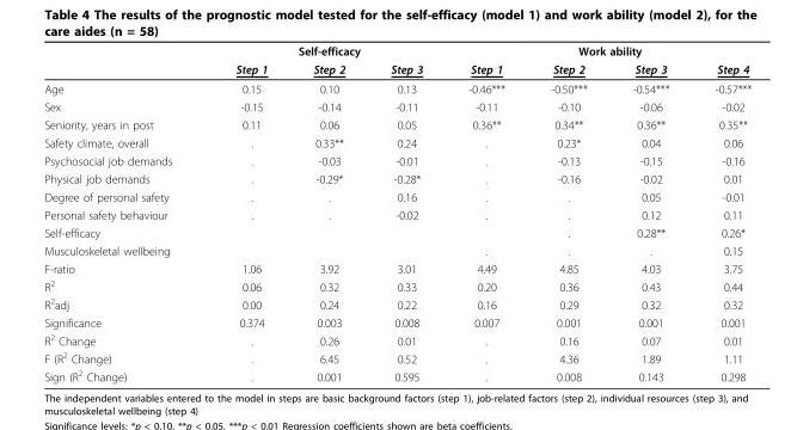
<table><thead><tr><td rowspan="2"></td><td colspan="3">Self-efficacy</td><td colspan="4">Work ability</td></tr><tr><td>Step 1</td><td>Step 2</td><td>Step 3</td><td>Step 1</td><td>Step 2</td><td>Step 3</td><td>Step 4</td></tr></thead><tbody><tr><td>Age</td><td>0.15</td><td>0.10</td><td>0.13</td><td>-0.46***</td><td>-0.50***</td><td>-0.54***</td><td>-0.57***</td></tr><tr><td>Sex</td><td>-0.15</td><td>-0.14</td><td>-0.11</td><td>-0.11</td><td>-0.10</td><td>-0.06</td><td>-0.02</td></tr><tr><td>Seniority, years in post</td><td>0.11</td><td>0.06</td><td>0.05</td><td>0.36**</td><td>0.34**</td><td>0.36**</td><td>0.35**</td></tr><tr><td>Safety climate, overall</td><td>.</td><td>0.33**</td><td>0.24</td><td>.</td><td>0.23*</td><td>0.04</td><td>0.06</td></tr><tr><td>Psychosocial job demands</td><td>.</td><td>-0.03</td><td>-0.01</td><td>.</td><td>-0.13</td><td>-0.15</td><td>-0.16</td></tr><tr><td>Physical job demands</td><td>.</td><td>-0.29*</td><td>-0.28*</td><td>.</td><td>-0.16</td><td>-0.02</td><td>0.01</td></tr><tr><td>Degree of personal safety</td><td>.</td><td>.</td><td>0.16</td><td>.</td><td>.</td><td>0.05</td><td>-0.01</td></tr><tr><td>Personal safety behaviour</td><td>.</td><td>.</td><td>-0.02</td><td>.</td><td>.</td><td>0.12</td><td>0.11</td></tr><tr><td>Self-efficacy</td><td></td><td></td><td></td><td></td><td>.</td><td>0.28**</td><td>0.26*</td></tr><tr><td>Musculoskeletal wellbeing</td><td></td><td></td><td></td><td>.</td><td>.</td><td>.</td><td>0.15</td></tr><tr><td>F-ratio</td><td>1.06</td><td>3.92</td><td>3.01</td><td>4.49</td><td>4.85</td><td>4.03</td><td>3.75</td></tr><tr><td>R<sup>2</sup></td><td>0.06</td><td>0.32</td><td>0.33</td><td>0.20</td><td>0.36</td><td>0.43</td><td>0.44</td></tr><tr><td>R<sup>2</sup>adj</td><td>0.00</td><td>0.24</td><td>0.22</td><td>0.16</td><td>0.29</td><td>0.32</td><td>0.32</td></tr><tr><td>Significance</td><td>0.374</td><td>0.003</td><td>0.008</td><td>0.007</td><td>0.001</td><td>0.001</td><td>0.001</td></tr><tr><td>R<sup>2</sup> Change</td><td>.</td><td>0.26</td><td>0.01</td><td>.</td><td>0.16</td><td>0.07</td><td>0.01</td></tr><tr><td>F (R<sup>2</sup> Change)</td><td>.</td><td>6.45</td><td>0.52</td><td>.</td><td>4.36</td><td>1.89</td><td>1.11</td></tr><tr><td>Sign (R<sup>2</sup> Change)</td><td>.</td><td>0.001</td><td>0.595</td><td>.</td><td>0.008</td><td>0.143</td><td>0.298</td></tr></tbody></table>